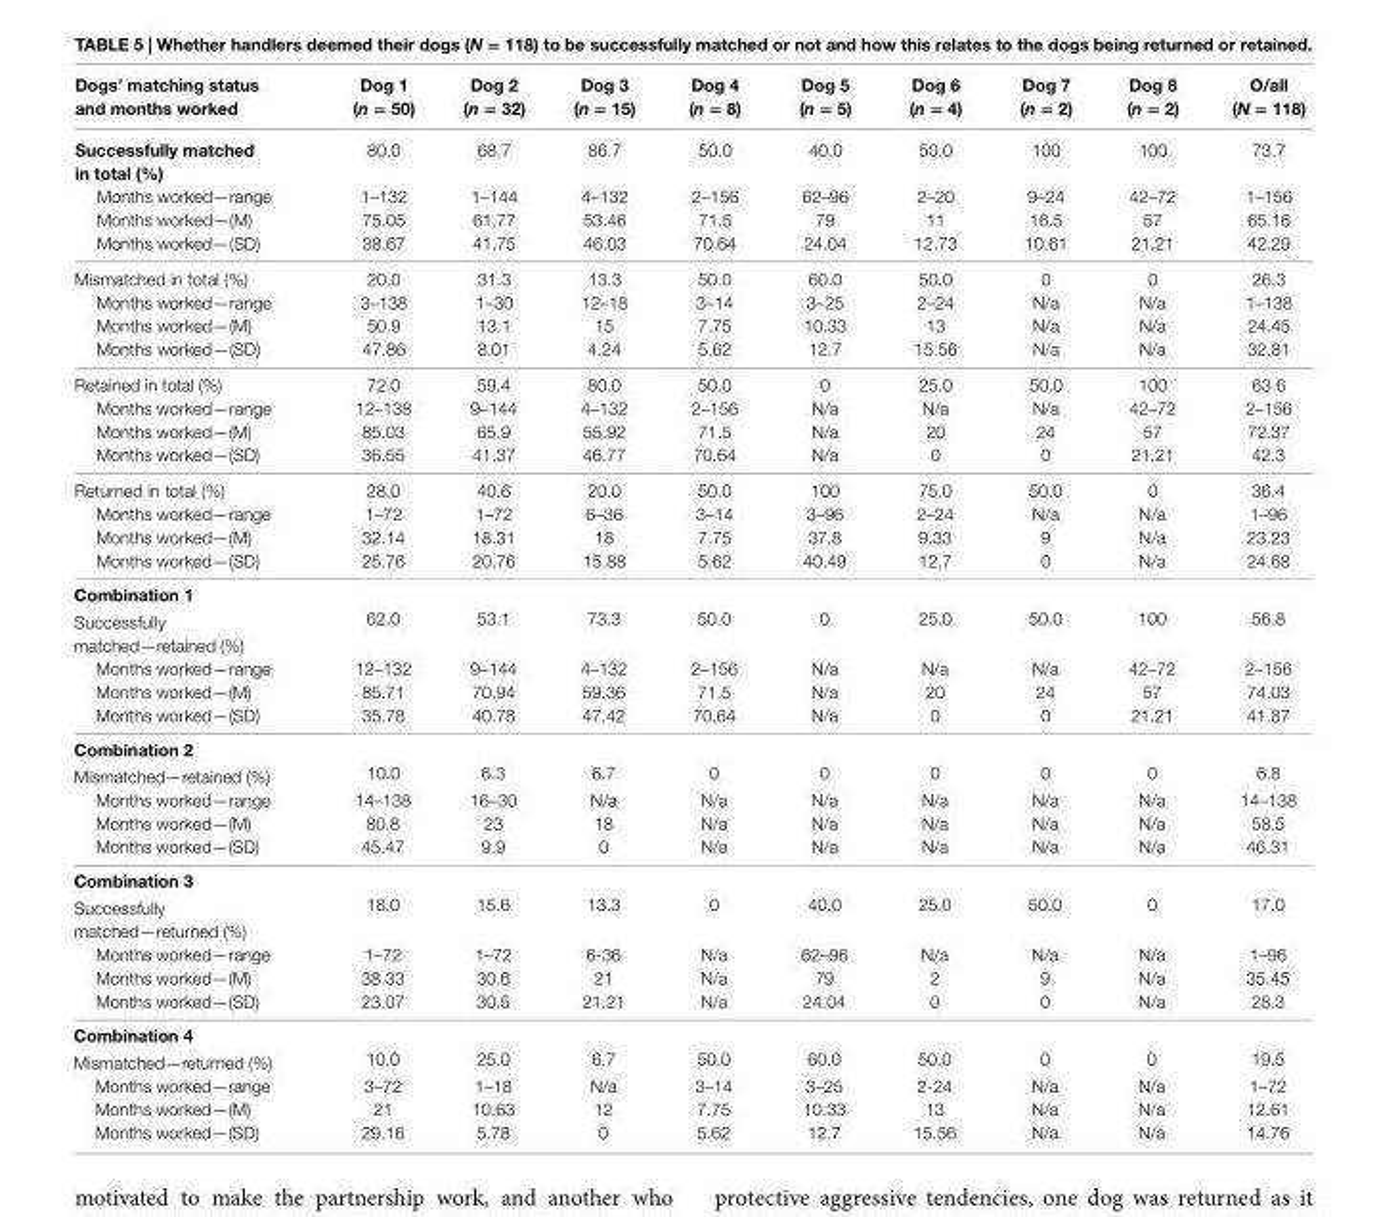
<table><thead><tr><td>Dogs’ matching status and months worked</td><td>Dog 1 (n = 50)</td><td>Dog 2 (n = 32)</td><td>Dog 3 (n = 15)</td><td>Dog 4 (n = 8)</td><td>Dog 5 (n = 5)</td><td>Dog 6 (n = 4)</td><td>Dog 7 (n = 2)</td><td>Dog 8 (n = 2)</td><td>O/all (N = 118)</td></tr></thead><tbody><tr><td>successfully matched in total (%)</td><td>80.0</td><td>68.7</td><td>86.7</td><td>50.0</td><td>40.0</td><td>50.0</td><td>100</td><td>100</td><td>73.7</td></tr><tr><td>Months worked—range</td><td>1–132</td><td>1–144</td><td>4–132</td><td>2–156</td><td>62–96</td><td>2–20</td><td>9–24</td><td>42–72</td><td>1–156</td></tr><tr><td>Months worked—(M)</td><td>75.05</td><td>61.77</td><td>53.46</td><td>71.5</td><td>79</td><td>11</td><td>16.5</td><td>57</td><td>65.16</td></tr><tr><td>Months worked—(SD)</td><td>38.67</td><td>41.75</td><td>46.03</td><td>70.64</td><td>24.04</td><td>12.73</td><td>10.61</td><td>21.21</td><td>42.29</td></tr><tr><td>Mismatched in total (%)</td><td>20.0</td><td>31.3</td><td>13.3</td><td>50.0</td><td>60.0</td><td>50.0</td><td>0</td><td>0</td><td>26.3</td></tr><tr><td>Months worked—range</td><td>3–138</td><td>1–30</td><td>12–18</td><td>3–14</td><td>3–25</td><td>2–24</td><td>N/a</td><td>N/a</td><td>1–138</td></tr><tr><td>Months worked—(M)</td><td>50.9</td><td>13.1</td><td>15</td><td>7.75</td><td>10.33</td><td>13</td><td>N/a</td><td>N/a</td><td>24.45</td></tr><tr><td>Months worked—(SD)</td><td>47.86</td><td>8.01</td><td>4.24</td><td>5.62</td><td>12.7</td><td>15.56</td><td>N/a</td><td>N/a</td><td>32.81</td></tr><tr><td>Retained in total (%)</td><td>72.0</td><td>59.4</td><td>80.0</td><td>50.0</td><td>0</td><td>25.0</td><td>50.0</td><td>100</td><td>63.6</td></tr><tr><td>Months worked—range</td><td>12–138</td><td>9–144</td><td>4–132</td><td>2–156</td><td>N/a</td><td>N/a</td><td>N/a</td><td>42–72</td><td>2–156</td></tr><tr><td>Months worked—(M)</td><td>85.03</td><td>65.9</td><td>55.92</td><td>71.5</td><td>N/a</td><td>20</td><td>24</td><td>57</td><td>72.37</td></tr><tr><td>Months worked—(SD)</td><td>36.55</td><td>41.37</td><td>46.77</td><td>70.64</td><td>N/a</td><td>0</td><td>0</td><td>21.21</td><td>42.3</td></tr><tr><td>Returned in total (%)</td><td>28.0</td><td>40.6</td><td>20.0</td><td>50.0</td><td>100</td><td>75.0</td><td>50.0</td><td>0</td><td>36.4</td></tr><tr><td>Months worked—range</td><td>1–72</td><td>1–72</td><td>6–36</td><td>3–14</td><td>3–96</td><td>2–24</td><td>N/a</td><td>N/a</td><td>1–96</td></tr><tr><td>Months worked—(M)</td><td>32.14</td><td>18.31</td><td>18</td><td>7.75</td><td>37.8</td><td>9.33</td><td>9</td><td>N/a</td><td>23.23</td></tr><tr><td>Months worked—(SD)</td><td>25.76</td><td>20.76</td><td>15.88</td><td>5.62</td><td>40.49</td><td>12.7</td><td>0</td><td>N/a</td><td>24.68</td></tr><tr><td colspan="10">combination 1</td></tr><tr><td>Successfully matched—retained (%)</td><td>62.0</td><td>53.1</td><td>73.3</td><td>50.0</td><td>0</td><td>25.0</td><td>50.0</td><td>100</td><td>56.8</td></tr><tr><td>Months worked—range</td><td>12–132</td><td>9–144</td><td>4–132</td><td>2–156</td><td>N/a</td><td>N/a</td><td>N/a</td><td>42–72</td><td>2–156</td></tr><tr><td>Months worked—(M)</td><td>85.71</td><td>70.94</td><td>59.36</td><td>71.5</td><td>N/a</td><td>20</td><td>24</td><td>57</td><td>74.03</td></tr><tr><td>Months worked—(SD)</td><td>35.78</td><td>40.78</td><td>47.42</td><td>70.64</td><td>N/a</td><td>0</td><td>0</td><td>21.21</td><td>41.87</td></tr><tr><td colspan="10">combination 2</td></tr><tr><td>Mismatched—retained (%)</td><td>10.0</td><td>6.3</td><td>6.7</td><td>0</td><td>0</td><td>0</td><td>0</td><td>0</td><td>6.8</td></tr><tr><td>Months worked—range</td><td>14–138</td><td>16–30</td><td>N/a</td><td>N/a</td><td>N/a</td><td>N/a</td><td>N/a</td><td>N/a</td><td>14–138</td></tr><tr><td>Months worked—(M)</td><td>80.8</td><td>23</td><td>18</td><td>N/a</td><td>N/a</td><td>N/a</td><td>N/a</td><td>N/a</td><td>58.5</td></tr><tr><td>Months worked—(SD)</td><td>45.47</td><td>9.9</td><td>0</td><td>N/a</td><td>N/a</td><td>N/a</td><td>N/a</td><td>N/a</td><td>46.31</td></tr><tr><td colspan="10">combination 3</td></tr><tr><td>Successfully matched—returned (%)</td><td>18.0</td><td>15.6</td><td>13.3</td><td>0</td><td>40.0</td><td>25.0</td><td>50.0</td><td>0</td><td>17.0</td></tr><tr><td>Months worked—range</td><td>1–72</td><td>1–72</td><td>6-36</td><td>N/a</td><td>62–96</td><td>N/a</td><td>N/a</td><td>N/a</td><td>1–96</td></tr><tr><td>Months worked—(M)</td><td>38.33</td><td>30.6</td><td>21</td><td>N/a</td><td>79</td><td>2</td><td>9</td><td>N/a</td><td>35.45</td></tr><tr><td>Months worked—(SD)</td><td>23.07</td><td>30.5</td><td>21.21</td><td>N/a</td><td>24.04</td><td>0</td><td>0</td><td>N/a</td><td>28.3</td></tr><tr><td colspan="10">combination 4</td></tr><tr><td>Mismatched—returned (%)</td><td>10.0</td><td>25.0</td><td>6.7</td><td>50.0</td><td>60.0</td><td>50.0</td><td>0</td><td>0</td><td>19.5</td></tr><tr><td>Months worked—range</td><td>3–72</td><td>1–18</td><td>N/a</td><td>3–14</td><td>3–25</td><td>2-24</td><td>N/a</td><td>N/a</td><td>1–72</td></tr><tr><td>Months worked—(M)</td><td>21</td><td>10.63</td><td>12</td><td>7.75</td><td>10.33</td><td>13</td><td>N/a</td><td>N/a</td><td>12.61</td></tr><tr><td>Months worked—(SD)</td><td>29.16</td><td>5.78</td><td>0</td><td>5.62</td><td>12.7</td><td>15.56</td><td>N/a</td><td>N/a</td><td>14.76</td></tr></tbody></table>